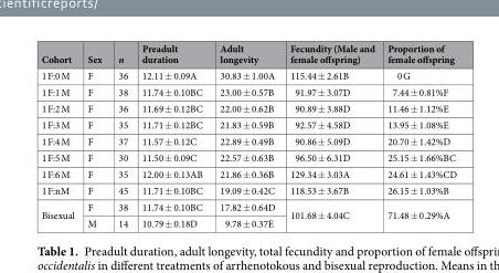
<table><thead><tr><td>Cohort</td><td>Sex</td><td>n</td><td>Preadult duration</td><td>Adult longevity</td><td>Fecundity (Male and female offspring)</td><td>Proportion of female offspring</td></tr></thead><tbody><tr><td>1 F:0 M</td><td>F</td><td>36</td><td>12.11 ± 0.09A</td><td>30.83 ± 1.00A</td><td>115.44 ± 2.61B</td><td>0 G</td></tr><tr><td>1 F:1 M</td><td>F</td><td>38</td><td>11.74 ± 0.10BC</td><td>23.00 ± 0.57B</td><td>91.97 ± 3.07D</td><td>7.44 ± 0.81%F</td></tr><tr><td>1 F:2 M</td><td>F</td><td>36</td><td>11.69 ± 0.12BC</td><td>22.00 ± 0.62B</td><td>90.89 ± 3.88D</td><td>11.46 ± 1.12%E</td></tr><tr><td>1 F:3 M</td><td>F</td><td>35</td><td>11.71 ± 0.12BC</td><td>21.83 ± 0.59B</td><td>92.57 ± 4.58D</td><td>13.95 ± 1.08%E</td></tr><tr><td>1 F:4 M</td><td>F</td><td>37</td><td>11.57 ± 0.12C</td><td>22.89 ± 0.49B</td><td>90.86 ± 5.09D</td><td>20.70 ± 1.42%D</td></tr><tr><td>1 F:5 M</td><td>F</td><td>30</td><td>11.50 ± 0.09C</td><td>22.57 ± 0.63B</td><td>96.50 ± 6.31D</td><td>25.15 ± 1.66%BC</td></tr><tr><td>1 F:6 M</td><td>F</td><td>35</td><td>12.00 ± 0.13AB</td><td>21.86 ± 0.36B</td><td>129.34 ± 3.03A</td><td>24.61 ± 1.43%CD</td></tr><tr><td>1 F:nM</td><td>F</td><td>45</td><td>11.71 ± 0.10BC</td><td>19.09 ± 0.42C</td><td>118.53 ± 3.67B</td><td>26.15 ± 1.03%B</td></tr><tr><td rowspan="2">Bisexual</td><td>F</td><td>38</td><td>11.74 ± 0.10BC</td><td>17.82 ± 0.64D</td><td rowspan="2">101.68 ± 4.04C</td><td rowspan="2">71.48 ± 0.29%A</td></tr><tr><td>M</td><td>14</td><td>10.79 ± 0.18D</td><td>9.78 ± 0.37E</td></tr></tbody></table>